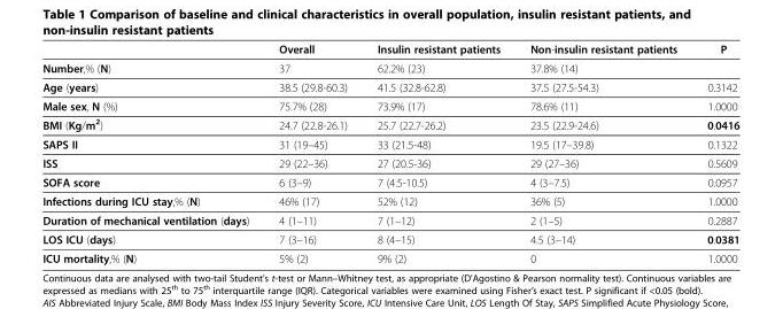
<table><thead><tr><td></td><td>Overall</td><td>Insulin resistant patients</td><td>Non-insulin resistant patients</td><td>P</td></tr></thead><tbody><tr><td>Number,% (N)</td><td>37</td><td>62.2% (23)</td><td>37.8% (14)</td><td></td></tr><tr><td>Age (years)</td><td>38.5 (29.8-60.3)</td><td>41.5 (32.8-62.8)</td><td>37.5 (27.5-54.3)</td><td>0.3142</td></tr><tr><td>Male sex, N (%)</td><td>75.7% (28)</td><td>73.9% (17)</td><td>78.6% (11)</td><td>1.0000</td></tr><tr><td>BMI (Kg/m<sup>2</sup>)</td><td>24.7 (22.8-26.1)</td><td>25.7 (22.7-26.2)</td><td>23.5 (22.9-24.6)</td><td>0.0416</td></tr><tr><td>SAPS II</td><td>31 (19–45)</td><td>33 (21.5-48)</td><td>19.5 (17–39.8)</td><td>0.1322</td></tr><tr><td>ISS</td><td>29 (22–36)</td><td>27 (20.5-36)</td><td>29 (27–36)</td><td>0.5609</td></tr><tr><td>SOFA score</td><td>6 (3–9)</td><td>7 (4.5-10.5)</td><td>4 (3–7.5)</td><td>0.0957</td></tr><tr><td>Infections during ICU stay,% (N)</td><td>46% (17)</td><td>52% (12)</td><td>36% (5)</td><td>1.0000</td></tr><tr><td>Duration of mechanical ventilation (days)</td><td>4 (1–11)</td><td>7 (1–12)</td><td>2 (1–5)</td><td>0.2887</td></tr><tr><td>LOS ICU (days)</td><td>7 (3–16)</td><td>8 (4–15)</td><td>4.5 (3–14)</td><td>0.0381</td></tr><tr><td>ICU mortality,% (N)</td><td>5% (2)</td><td>9% (2)</td><td>0</td><td>1.0000</td></tr></tbody></table>